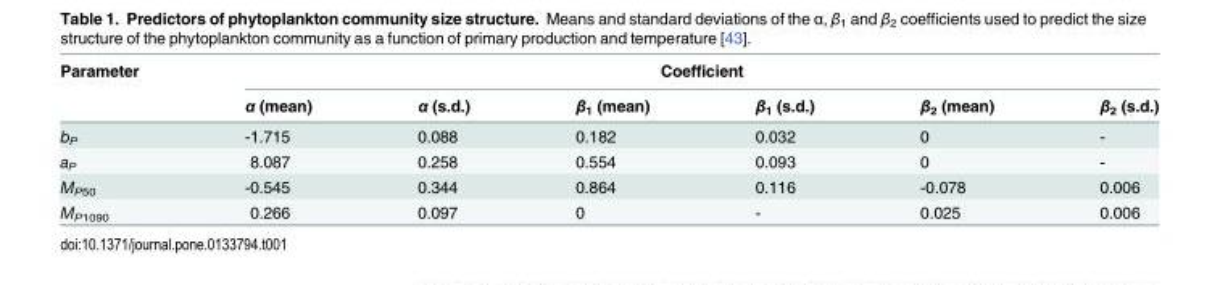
<table><thead><tr><td rowspan="2">Parameter</td><td colspan="6">Coefficient</td></tr><tr><td>α (mean)</td><td>α (s.d.)</td><td>β<sub>1</sub> (mean)</td><td>β<sub>1</sub> (s.d.)</td><td>β<sub>2</sub> (mean)</td><td>β<sub>2</sub> (s.d.)</td></tr></thead><tbody><tr><td>b<sub>P</sub></td><td>-1.715</td><td>0.088</td><td>0.182</td><td>0.032</td><td>0</td><td>-</td></tr><tr><td>a<sub>P</sub></td><td>8.087</td><td>0.258</td><td>0.554</td><td>0.093</td><td>0</td><td>-</td></tr><tr><td>M<sub>P50</sub></td><td>-0.545</td><td>0.344</td><td>0.864</td><td>0.116</td><td>-0.078</td><td>0.006</td></tr><tr><td>M<sub>P1090</sub></td><td>0.266</td><td>0.097</td><td>0</td><td>-</td><td>0.025</td><td>0.006</td></tr></tbody></table>